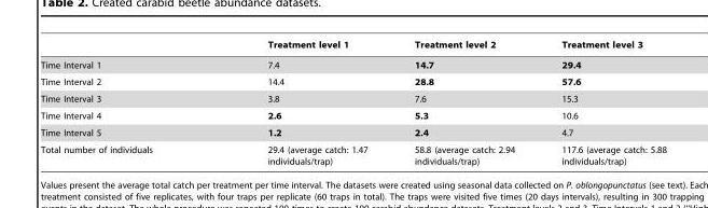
<table><thead><tr><td></td><td>Treatment level 1</td><td>Treatment level 2</td><td>Treatment level 3</td></tr></thead><tbody><tr><td>Time Interval 1</td><td>7.4</td><td>14.7</td><td>29.4</td></tr><tr><td>Time Interval 2</td><td>14.4</td><td>28.8</td><td>57.6</td></tr><tr><td>Time Interval 3</td><td>3.8</td><td>7.6</td><td>15.3</td></tr><tr><td>Time Interval 4</td><td>2.6</td><td>5.3</td><td>10.6</td></tr><tr><td>Time Interval 5</td><td>1.2</td><td>2.4</td><td>4.7</td></tr><tr><td>Total number of individuals</td><td>29.4 (average catch: 1.47 individuals/trap)</td><td>58.8 (average catch: 2.94 individuals/trap)</td><td>117.6 (average catch: 5.88 individuals/trap)</td></tr></tbody></table>